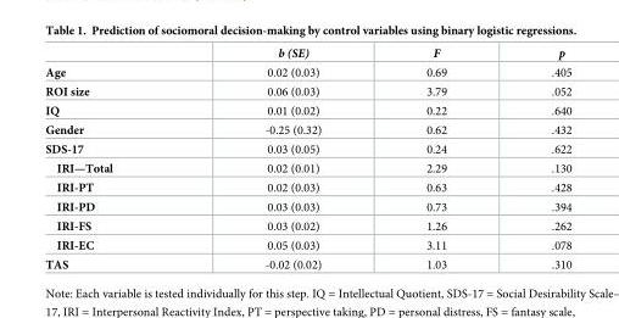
<table><thead><tr><td></td><td>b (SE)</td><td>F</td><td>p</td></tr></thead><tbody><tr><td>Age</td><td>0.02 (0.03)</td><td>0.69</td><td>.405</td></tr><tr><td>ROI size</td><td>0.06 (0.03)</td><td>3.79</td><td>.052</td></tr><tr><td>IQ</td><td>0.01 (0.02)</td><td>0.22</td><td>.640</td></tr><tr><td>Gender</td><td>-0.25 (0.32)</td><td>0.62</td><td>.432</td></tr><tr><td>SDS-17</td><td>0.03 (0.05)</td><td>0.24</td><td>.622</td></tr><tr><td>IRI—Total</td><td>0.02 (0.01)</td><td>2.29</td><td>.130</td></tr><tr><td>IRI-PT</td><td>0.02 (0.03)</td><td>0.63</td><td>.428</td></tr><tr><td>IRI-PD</td><td>0.03 (0.03)</td><td>0.73</td><td>.394</td></tr><tr><td>IRI-FS</td><td>0.03 (0.02)</td><td>1.26</td><td>.262</td></tr><tr><td>IRI-EC</td><td>0.05 (0.03)</td><td>3.11</td><td>.078</td></tr><tr><td>TAS</td><td>-0.02 (0.02)</td><td>1.03</td><td>.310</td></tr></tbody></table>